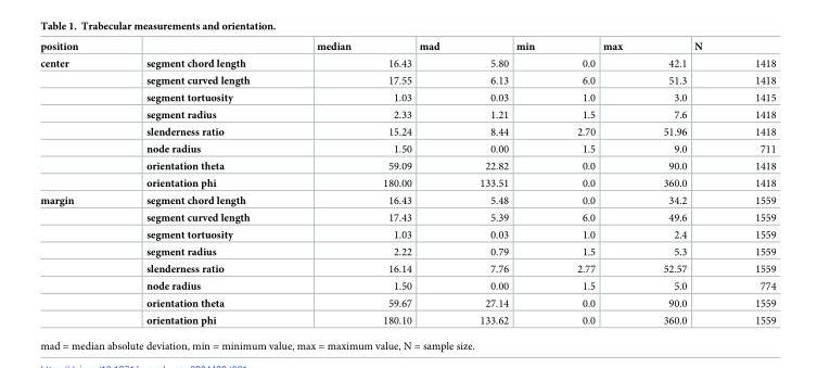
<table><thead><tr><td>position</td><td></td><td>median</td><td>mad</td><td>min</td><td>max</td><td>N</td></tr></thead><tbody><tr><td rowspan="8">center</td><td>segment chord length</td><td>16.43</td><td>5.80</td><td>0.0</td><td>42.1</td><td>1418</td></tr><tr><td>segment curved length</td><td>17.55</td><td>6.13</td><td>6.0</td><td>51.3</td><td>1418</td></tr><tr><td>segment tortuosity</td><td>1.03</td><td>0.03</td><td>1.0</td><td>3.0</td><td>1415</td></tr><tr><td>segment radius</td><td>2.33</td><td>1.21</td><td>1.5</td><td>7.6</td><td>1418</td></tr><tr><td>slenderness ratio</td><td>15.24</td><td>8.44</td><td>2.70</td><td>51.96</td><td>1418</td></tr><tr><td>node radius</td><td>1.50</td><td>0.00</td><td>1.5</td><td>9.0</td><td>711</td></tr><tr><td>orientation theta</td><td>59.09</td><td>22.82</td><td>0.0</td><td>90.0</td><td>1418</td></tr><tr><td>orientation phi</td><td>180.00</td><td>133.51</td><td>0.0</td><td>360.0</td><td>1418</td></tr><tr><td rowspan="8">margin</td><td>segment chord length</td><td>16.43</td><td>5.48</td><td>0.0</td><td>34.2</td><td>1559</td></tr><tr><td>segment curved length</td><td>17.43</td><td>5.39</td><td>6.0</td><td>49.6</td><td>1559</td></tr><tr><td>segment tortuosity</td><td>1.03</td><td>0.03</td><td>1.0</td><td>2.4</td><td>1559</td></tr><tr><td>segment radius</td><td>2.22</td><td>0.79</td><td>1.5</td><td>5.3</td><td>1559</td></tr><tr><td>slenderness ratio</td><td>16.14</td><td>7.76</td><td>2.77</td><td>52.57</td><td>1559</td></tr><tr><td>node radius</td><td>1.50</td><td>0.00</td><td>1.5</td><td>5.0</td><td>774</td></tr><tr><td>orientation theta</td><td>59.67</td><td>27.14</td><td>0.0</td><td>90.0</td><td>1559</td></tr><tr><td>orientation phi</td><td>180.10</td><td>133.62</td><td>0.0</td><td>360.0</td><td>1559</td></tr></tbody></table>